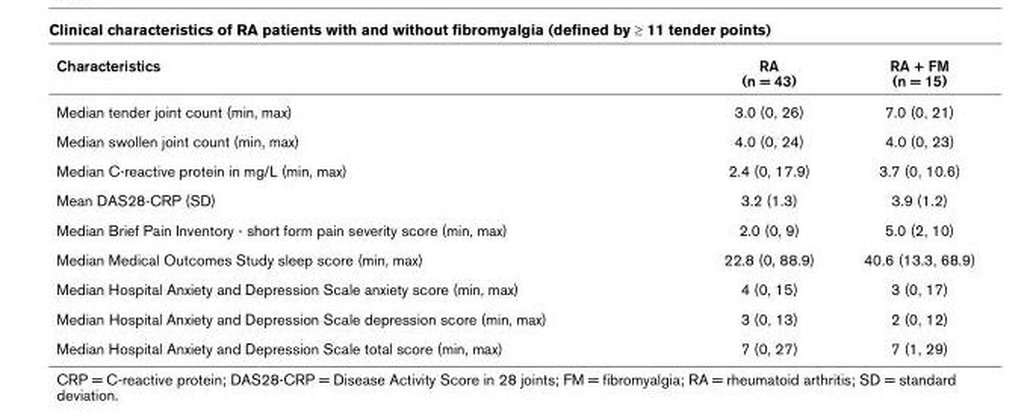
<table><thead><tr><td>Characteristics</td><td>RA (n = 43)</td><td>RA + FM (n = 15)</td></tr></thead><tbody><tr><td>Median tender joint count (min, max)</td><td>3.0 (0, 26)</td><td>7.0 (0, 21)</td></tr><tr><td>Median swollen joint count (min, max)</td><td>4.0 (0, 24)</td><td>4.0 (0, 23)</td></tr><tr><td>Median C-reactive protein in mg/L (min, max)</td><td>2.4 (0, 17.9)</td><td>3.7 (0, 10.6)</td></tr><tr><td>Mean DAS28-CRP (SD)</td><td>3.2 (1.3)</td><td>3.9 (1.2)</td></tr><tr><td>Median Brief Pain Inventory - short form pain severity score (min, max)</td><td>2.0 (0, 9)</td><td>5.0 (2, 10)</td></tr><tr><td>Median Medical Outcomes Study sleep score (min, max)</td><td>22.8 (0, 88.9)</td><td>40.6 (13.3, 68.9)</td></tr><tr><td>Median Hospital Anxiety and Depression Scale anxiety score (min, max)</td><td>4 (0, 15)</td><td>3 (0, 17)</td></tr><tr><td>Median Hospital Anxiety and Depression Scale depression score (min, max)</td><td>3 (0, 13)</td><td>2 (0, 12)</td></tr><tr><td>Median Hospital Anxiety and Depression Scale total score (min, max)</td><td>7 (0, 27)</td><td>7 (1, 29)</td></tr></tbody></table>